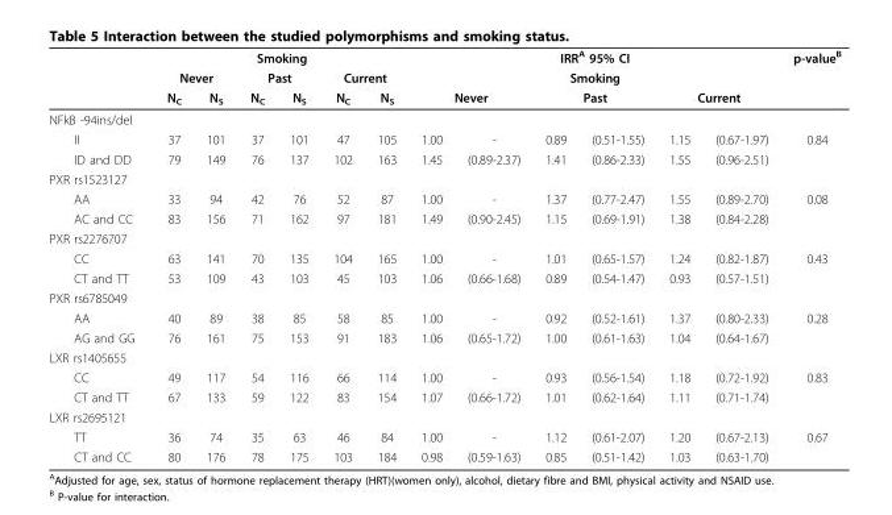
<table><thead><tr><td rowspan="4">NFkB -94ins/del</td><td colspan="6">Smoking</td><td rowspan="2" colspan="6">IRR<sup>A</sup> 95% CI Smoking</td><td rowspan="4">p-value<sup>B</sup></td></tr><tr><td colspan="2">Never</td><td colspan="2">Past</td><td colspan="2">Current</td></tr><tr><td rowspan="2">N<sub>C</sub></td><td rowspan="2">N<sub>S</sub></td><td rowspan="2">N<sub>C</sub></td><td rowspan="2">N<sub>S</sub></td><td rowspan="2">N<sub>C</sub></td><td rowspan="2">N<sub>S</sub></td><td colspan="2">Never</td><td colspan="2">Past</td><td colspan="2">Current</td></tr><tr><td></td><td></td><td></td><td></td><td></td><td></td></tr></thead><tbody><tr><td>II</td><td>37</td><td>101</td><td>37</td><td>101</td><td>47</td><td>105</td><td>1.00</td><td>-</td><td>0.89</td><td>(0.51-1.55)</td><td>1.15</td><td>(0.67-1.97)</td><td>0.84</td></tr><tr><td>ID and DD</td><td>79</td><td>149</td><td>76</td><td>137</td><td>102</td><td>163</td><td>1.45</td><td>(0.89-2.37)</td><td>1.41</td><td>(0.86-2.33)</td><td>1.55</td><td>(0.96-2.51)</td><td></td></tr><tr><td colspan="14">PXR rs1523127</td></tr><tr><td>AA</td><td>33</td><td>94</td><td>42</td><td>76</td><td>52</td><td>87</td><td>1.00</td><td>-</td><td>1.37</td><td>(0.77-2.47)</td><td>1.55</td><td>(0.89-2.70)</td><td>0.08</td></tr><tr><td>AC and CC</td><td>83</td><td>156</td><td>71</td><td>162</td><td>97</td><td>181</td><td>1.49</td><td>(0.90-2.45)</td><td>1.15</td><td>(0.69-1.91)</td><td>1.38</td><td>(0.84-2.28)</td><td></td></tr><tr><td colspan="14">PXR rs2276707</td></tr><tr><td>CC</td><td>63</td><td>141</td><td>70</td><td>135</td><td>104</td><td>165</td><td>1.00</td><td>-</td><td>1.01</td><td>(0.65-1.57)</td><td>1.24</td><td>(0.82-1.87)</td><td>0.43</td></tr><tr><td>CT and TT</td><td>53</td><td>109</td><td>43</td><td>103</td><td>45</td><td>103</td><td>1.06</td><td>(0.66-1.68)</td><td>0.89</td><td>(0.54-1.47)</td><td>0.93</td><td>(0.57-1.51)</td><td></td></tr><tr><td colspan="14">PXR rs6785049</td></tr><tr><td>AA</td><td>40</td><td>89</td><td>38</td><td>85</td><td>58</td><td>85</td><td>1.00</td><td>-</td><td>0.92</td><td>(0.52-1.61)</td><td>1.37</td><td>(0.80-2.33)</td><td>0.28</td></tr><tr><td>AG and GG</td><td>76</td><td>161</td><td>75</td><td>153</td><td>91</td><td>183</td><td>1.06</td><td>(0.65-1.72)</td><td>1.00</td><td>(0.61-1.63)</td><td>1.04</td><td>(0.64-1.67)</td><td></td></tr><tr><td colspan="14">LXR rs1405655</td></tr><tr><td>CC</td><td>49</td><td>117</td><td>54</td><td>116</td><td>66</td><td>114</td><td>1.00</td><td>-</td><td>0.93</td><td>(0.56-1.54)</td><td>1.18</td><td>(0.72-1.92)</td><td>0.83</td></tr><tr><td>CT and TT</td><td>67</td><td>133</td><td>59</td><td>122</td><td>83</td><td>154</td><td>1.07</td><td>(0.66-1.72)</td><td>1.01</td><td>(0.62-1.64)</td><td>1.11</td><td>(0.71-1.74)</td><td></td></tr><tr><td colspan="14">LXR rs2695121</td></tr><tr><td>TT</td><td>36</td><td>74</td><td>35</td><td>63</td><td>46</td><td>84</td><td>1.00</td><td>-</td><td>1.12</td><td>(0.61-2.07)</td><td>1.20</td><td>(0.67-2.13)</td><td>0.67</td></tr><tr><td>CT and CC</td><td>80</td><td>176</td><td>78</td><td>175</td><td>103</td><td>184</td><td>0.98</td><td>(0.59-1.63)</td><td>0.85</td><td>(0.51-1.42)</td><td>1.03</td><td>(0.63-1.70)</td><td></td></tr></tbody></table>